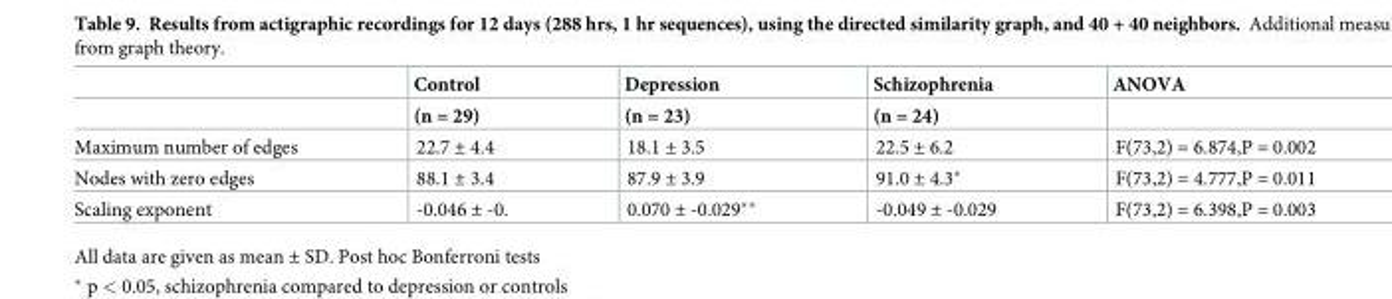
<table><thead><tr><td rowspan="2"></td><td rowspan="2">Control (n = 29)</td><td rowspan="2">Depression (n = 23)</td><td rowspan="2">Schizophrenia (n = 24)</td><td rowspan="2">ANOVA</td></tr><tr></tr></thead><tbody><tr><td>Maximum number of edges</td><td>22.7 ± 4.4</td><td>18.1 ± 3.5</td><td>22.5 ± 6.2</td><td>F(73,2) = 6.874,P = 0.002</td></tr><tr><td>Nodes with zero edges</td><td>88.1 ± 3.4</td><td>87.9 ± 3.9</td><td>91.0 ± 4.3*</td><td>F(73,2) = 4.777,P = 0.011</td></tr><tr><td>Scaling exponent</td><td>-0.046 ± -0.</td><td>0.070 ± -0.029**</td><td>-0.049 ± -0.029</td><td>F(73,2) = 6.398,P = 0.003</td></tr></tbody></table>